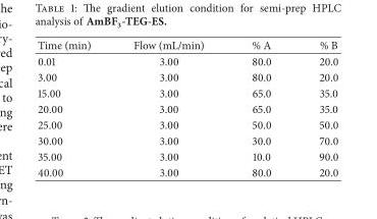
<table><thead><tr><td>Time (min)</td><td>Flow (mL/min)</td><td>% A</td><td>% B</td></tr></thead><tbody><tr><td>0.01</td><td>3.00</td><td>80.0</td><td>20.0</td></tr><tr><td>3.00</td><td>3.00</td><td>80.0</td><td>20.0</td></tr><tr><td>15.00</td><td>3.00</td><td>65.0</td><td>35.0</td></tr><tr><td>20.00</td><td>3.00</td><td>65.0</td><td>35.0</td></tr><tr><td>25.00</td><td>3.00</td><td>50.0</td><td>50.0</td></tr><tr><td>30.00</td><td>3.00</td><td>30.0</td><td>70.0</td></tr><tr><td>35.00</td><td>3.00</td><td>10.0</td><td>90.0</td></tr><tr><td>40.00</td><td>3.00</td><td>80.0</td><td>20.0</td></tr></tbody></table>